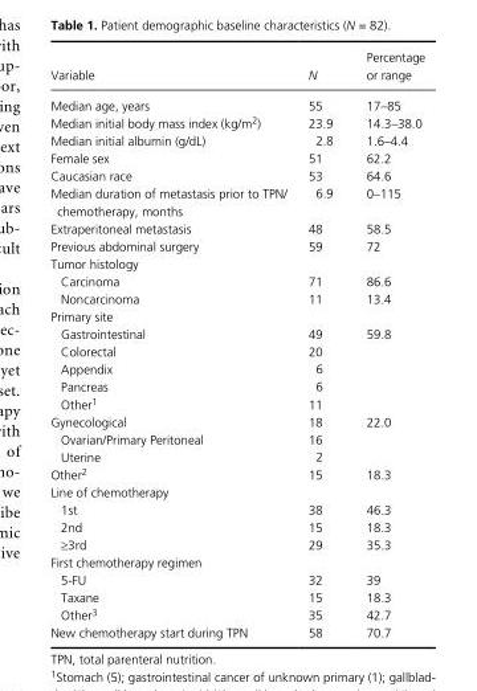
<table><thead><tr><td>Variable</td><td>N</td><td>Percentage or range</td></tr></thead><tbody><tr><td>Median age, years</td><td>55</td><td>17–85</td></tr><tr><td>Median initial body mass index (kg/m<sup>2</sup>)</td><td>23.9</td><td>14.3–38.0</td></tr><tr><td>Median initial albumin (g/dL)</td><td>2.8</td><td>1.6–4.4</td></tr><tr><td>Female sex</td><td>51</td><td>62.2</td></tr><tr><td>Caucasian race</td><td>53</td><td>64.6</td></tr><tr><td>Median duration of metastasis prior to TPN/ chemotherapy, months</td><td>6.9</td><td>0–115</td></tr><tr><td>Extraperitoneal metastasis</td><td>48</td><td>58.5</td></tr><tr><td>Previous abdominal surgery</td><td>59</td><td>72</td></tr><tr><td colspan="3">Tumor histology</td></tr><tr><td>Carcinoma</td><td>71</td><td>86.6</td></tr><tr><td>Noncarcinoma</td><td>11</td><td>13.4</td></tr><tr><td colspan="3">Primary site</td></tr><tr><td>Gastrointestinal</td><td>49</td><td>59.8</td></tr><tr><td>Colorectal</td><td>20</td><td></td></tr><tr><td>Appendix</td><td>6</td><td></td></tr><tr><td>Pancreas</td><td>6</td><td></td></tr><tr><td>Other1</td><td>11</td><td></td></tr><tr><td>Gynecological</td><td>18</td><td>22.0</td></tr><tr><td>Ovarian/Primary Peritoneal</td><td>16</td><td></td></tr><tr><td>Uterine</td><td>2</td><td></td></tr><tr><td>Other2</td><td>15</td><td>18.3</td></tr><tr><td colspan="3">Line of chemotherapy</td></tr><tr><td>1st</td><td>38</td><td>46.3</td></tr><tr><td>2nd</td><td>15</td><td>18.3</td></tr><tr><td>≥3rd</td><td>29</td><td>35.3</td></tr><tr><td colspan="3">First chemotherapy regimen</td></tr><tr><td>5- FU</td><td>32</td><td>39</td></tr><tr><td>Taxane</td><td>15</td><td>18.3</td></tr><tr><td>Other3</td><td>35</td><td>42.7</td></tr><tr><td>New chemotherapy start during TPN</td><td>58</td><td>70.7</td></tr></tbody></table>